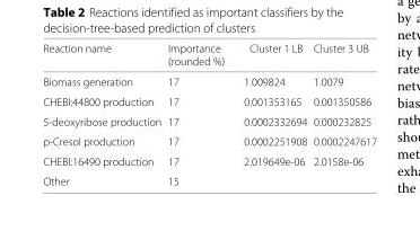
<table><thead><tr><td>Reaction name</td><td>Importance (rounded %)</td><td>Cluster 1 LB</td><td>Cluster 3 UB</td></tr></thead><tbody><tr><td>Biomass generation</td><td>17</td><td>1.009824</td><td>1.0079</td></tr><tr><td>CHEBI:44800 production</td><td>17</td><td>0.001353165</td><td>0.001350586</td></tr><tr><td>5-deoxyribose production</td><td>17</td><td>0.0002332694</td><td>0.000232825</td></tr><tr><td>p-Cresol production</td><td>17</td><td>0.0002251908</td><td>0.0002247617</td></tr><tr><td>CHEBI:16490 production</td><td>17</td><td>2.019649e-06</td><td>2.0158e-06</td></tr><tr><td>Other</td><td>15</td><td></td><td></td></tr></tbody></table>